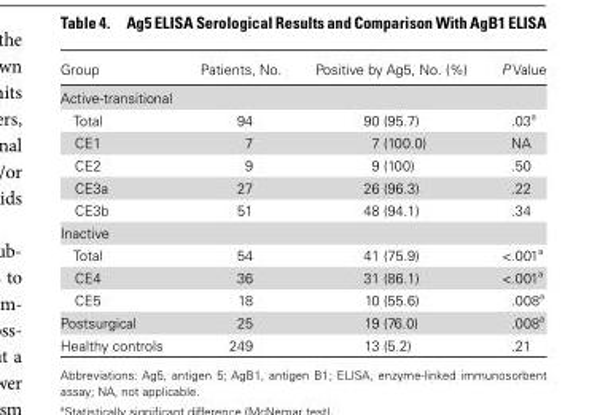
<table><thead><tr><td>Group</td><td>Patients, No.</td><td>Positive by Ag5, No. (%)</td><td>P Value</td></tr></thead><tbody><tr><td colspan="4">Active-transitional</td></tr><tr><td>Total</td><td>94</td><td>90 (95.7)</td><td>.03<sup>a</sup></td></tr><tr><td>CE1</td><td>7</td><td>7 (100.0)</td><td>NA</td></tr><tr><td>CE2</td><td>9</td><td>9 (100)</td><td>.50</td></tr><tr><td>CE3a</td><td>27</td><td>26 (96.3)</td><td>.22</td></tr><tr><td>CE3b</td><td>51</td><td>48 (94.1)</td><td>.34</td></tr><tr><td colspan="4">Inactive</td></tr><tr><td>Total</td><td>54</td><td>41 (75.9)</td><td>&lt;.001<sup>a</sup></td></tr><tr><td>CE4</td><td>36</td><td>31 (86.1)</td><td>&lt;.001<sup>a</sup></td></tr><tr><td>CE5</td><td>18</td><td>10 (55.6)</td><td>.008<sup>a</sup></td></tr><tr><td>Postsurgical</td><td>25</td><td>19 (76.0)</td><td>.008<sup>a</sup></td></tr><tr><td>Healthy controls</td><td>249</td><td>13 (5.2)</td><td>.21</td></tr></tbody></table>